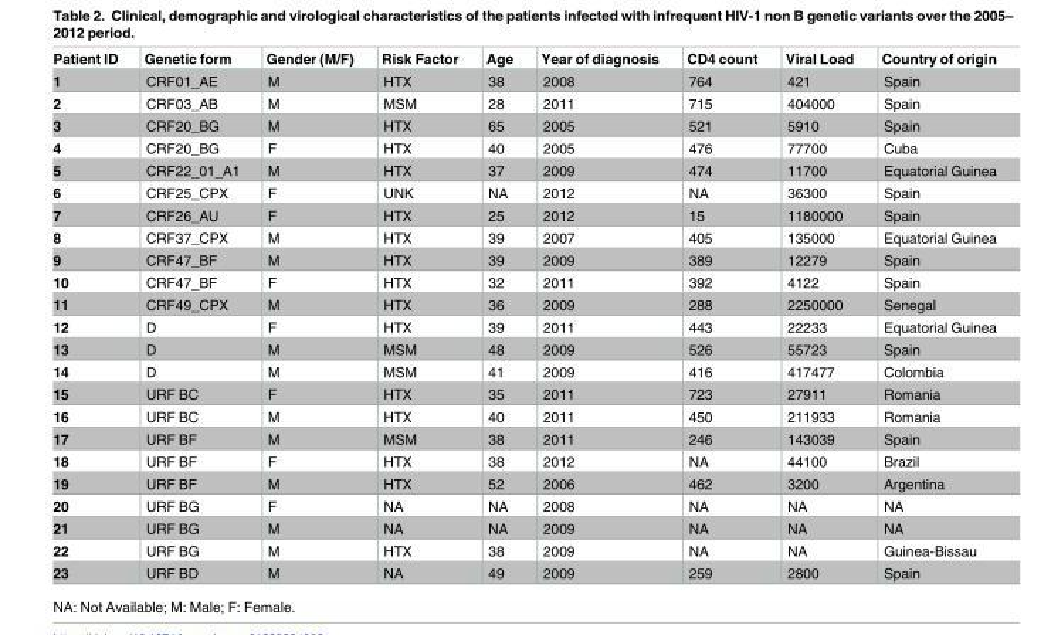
<table><thead><tr><td>Patient ID</td><td>Genetic form</td><td>Gender (M/F)</td><td>Risk Factor</td><td>Age</td><td>Year of diagnosis</td><td>CD4 count</td><td>Viral Load</td><td>Country of origin</td></tr></thead><tbody><tr><td>1</td><td>CRF01_AE</td><td>M</td><td>HTX</td><td>38</td><td>2008</td><td>764</td><td>421</td><td>Spain</td></tr><tr><td>2</td><td>CRF03_AB</td><td>M</td><td>MSM</td><td>28</td><td>2011</td><td>715</td><td>404000</td><td>Spain</td></tr><tr><td>3</td><td>CRF20_BG</td><td>M</td><td>HTX</td><td>65</td><td>2005</td><td>521</td><td>5910</td><td>Spain</td></tr><tr><td>4</td><td>CRF20_BG</td><td>F</td><td>HTX</td><td>40</td><td>2005</td><td>476</td><td>77700</td><td>Cuba</td></tr><tr><td>5</td><td>CRF22_01_A1</td><td>M</td><td>HTX</td><td>37</td><td>2009</td><td>474</td><td>11700</td><td>Equatorial Guinea</td></tr><tr><td>6</td><td>CRF25_CPX</td><td>F</td><td>UNK</td><td>NA</td><td>2012</td><td>NA</td><td>36300</td><td>Spain</td></tr><tr><td>7</td><td>CRF26_AU</td><td>F</td><td>HTX</td><td>25</td><td>2012</td><td>15</td><td>1180000</td><td>Spain</td></tr><tr><td>8</td><td>CRF37_CPX</td><td>M</td><td>HTX</td><td>39</td><td>2007</td><td>405</td><td>135000</td><td>Equatorial Guinea</td></tr><tr><td>9</td><td>CRF47_BF</td><td>M</td><td>HTX</td><td>39</td><td>2009</td><td>389</td><td>12279</td><td>Spain</td></tr><tr><td>10</td><td>CRF47_BF</td><td>F</td><td>HTX</td><td>32</td><td>2011</td><td>392</td><td>4122</td><td>Spain</td></tr><tr><td>11</td><td>CRF49_CPX</td><td>M</td><td>HTX</td><td>36</td><td>2009</td><td>288</td><td>2250000</td><td>Senegal</td></tr><tr><td>12</td><td>D</td><td>F</td><td>HTX</td><td>39</td><td>2011</td><td>443</td><td>22233</td><td>Equatorial Guinea</td></tr><tr><td>13</td><td>D</td><td>M</td><td>MSM</td><td>48</td><td>2009</td><td>526</td><td>55723</td><td>Spain</td></tr><tr><td>14</td><td>D</td><td>M</td><td>MSM</td><td>41</td><td>2009</td><td>416</td><td>417477</td><td>Colombia</td></tr><tr><td>15</td><td>URF BC</td><td>F</td><td>HTX</td><td>35</td><td>2011</td><td>723</td><td>27911</td><td>Romania</td></tr><tr><td>16</td><td>URF BC</td><td>M</td><td>HTX</td><td>40</td><td>2011</td><td>450</td><td>211933</td><td>Romania</td></tr><tr><td>17</td><td>URF BF</td><td>M</td><td>MSM</td><td>38</td><td>2011</td><td>246</td><td>143039</td><td>Spain</td></tr><tr><td>18</td><td>URF BF</td><td>F</td><td>HTX</td><td>38</td><td>2012</td><td>NA</td><td>44100</td><td>Brazil</td></tr><tr><td>19</td><td>URF BF</td><td>M</td><td>HTX</td><td>52</td><td>2006</td><td>462</td><td>3200</td><td>Argentina</td></tr><tr><td>20</td><td>URF BG</td><td>F</td><td>NA</td><td>NA</td><td>2008</td><td>NA</td><td>NA</td><td>NA</td></tr><tr><td>21</td><td>URF BG</td><td>M</td><td>NA</td><td>NA</td><td>2009</td><td>NA</td><td>NA</td><td>NA</td></tr><tr><td>22</td><td>URF BG</td><td>M</td><td>HTX</td><td>38</td><td>2009</td><td>NA</td><td>NA</td><td>Guinea-Bissau</td></tr><tr><td>23</td><td>URF BD</td><td>M</td><td>NA</td><td>49</td><td>2009</td><td>259</td><td>2800</td><td>Spain</td></tr></tbody></table>